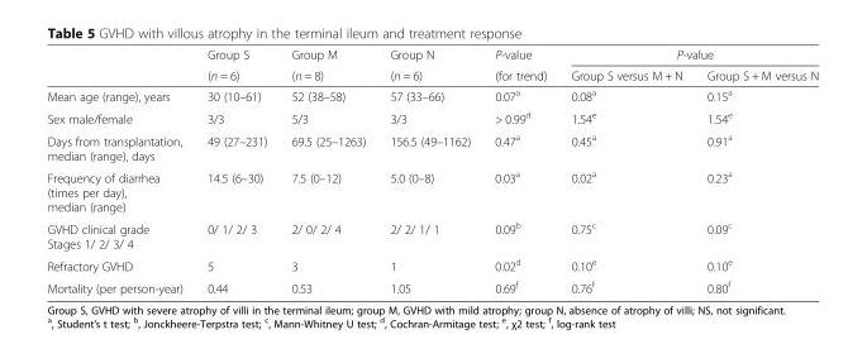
<table><thead><tr><td rowspan="2"></td><td rowspan="2">Group S (n = 6)</td><td rowspan="2">Group M (n = 8)</td><td rowspan="2">Group N (n = 6)</td><td rowspan="2">P-value (for trend)</td><td colspan="2">P-value</td></tr><tr><td>Group S versus M + N</td><td>Group S + M versus N</td></tr></thead><tbody><tr><td>Mean age (range), years</td><td>30 (10–61)</td><td>52 (38–58)</td><td>57 (33–66)</td><td>0.07<sup>a</sup></td><td>0.08<sup>a</sup></td><td>0.15<sup>a</sup></td></tr><tr><td>Sex male/female</td><td>3/3</td><td>5/3</td><td>3/3</td><td>&gt; 0.99<sup>d</sup></td><td>1.54<sup>e</sup></td><td>1.54<sup>e</sup></td></tr><tr><td>Days from transplantation, median (range), days</td><td>49 (27–231)</td><td>69.5 (25–1263)</td><td>156.5 (49–1162)</td><td>0.47<sup>a</sup></td><td>0.45<sup>a</sup></td><td>0.91<sup>a</sup></td></tr><tr><td>Frequency of diarrhea (times per day), median (range)</td><td>14.5 (6–30)</td><td>7.5 (0–12)</td><td>5.0 (0–8)</td><td>0.03<sup>a</sup></td><td>0.02<sup>a</sup></td><td>0.23<sup>a</sup></td></tr><tr><td>GVHD clinical grade Stages 1/ 2/ 3/ 4</td><td>0/ 1/ 2/ 3</td><td>2/ 0/ 2/ 4</td><td>2/ 2/ 1/ 1</td><td>0.09<sup>b</sup></td><td>0.75<sup>c</sup></td><td>0.09<sup>c</sup></td></tr><tr><td>Refractory GVHD</td><td>5</td><td>3</td><td>1</td><td>0.02<sup>d</sup></td><td>0.10<sup>e</sup></td><td>0.10<sup>e</sup></td></tr><tr><td>Mortality (per person-year)</td><td>0.44</td><td>0.53</td><td>1.05</td><td>0.69<sup>f</sup></td><td>0.76<sup>f</sup></td><td>0.80<sup>f</sup></td></tr></tbody></table>